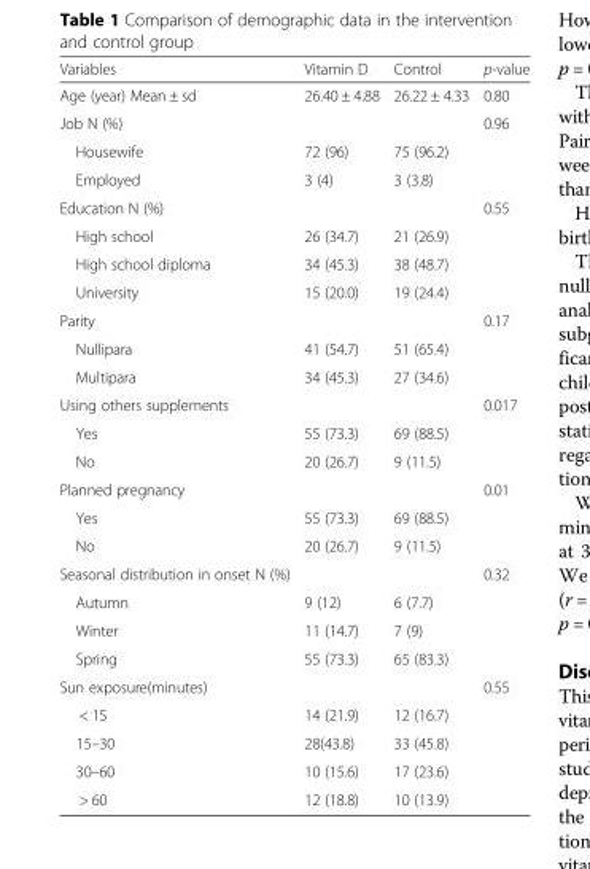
<table><thead><tr><td>Variables</td><td>Vitamin D</td><td>Control</td><td>p-value</td></tr></thead><tbody><tr><td>Age (year) Mean ± sd</td><td>26.40 ± 4.88</td><td>26.22 ± 4.33</td><td>0.80</td></tr><tr><td>Job N (%)</td><td></td><td></td><td>0.96</td></tr><tr><td>Housewife</td><td>72 (96)</td><td>75 (96.2)</td><td rowspan="2"></td></tr><tr><td>Employed</td><td>3 (4)</td><td>3 (3.8)</td></tr><tr><td>Education N (%)</td><td></td><td></td><td>0.55</td></tr><tr><td>High school</td><td>26 (34.7)</td><td>21 (26.9)</td><td rowspan="3"></td></tr><tr><td>High school diploma</td><td>34 (45.3)</td><td>38 (48.7)</td></tr><tr><td>University</td><td>15 (20.0)</td><td>19 (24.4)</td></tr><tr><td>Parity</td><td></td><td></td><td>0.17</td></tr><tr><td>Nullipara</td><td>41 (54.7)</td><td>51 (65.4)</td><td rowspan="2"></td></tr><tr><td>Multipara</td><td>34 (45.3)</td><td>27 (34.6)</td></tr><tr><td>Using others supplements</td><td></td><td></td><td>0.017</td></tr><tr><td>Yes</td><td>55 (73.3)</td><td>69 (88.5)</td><td rowspan="2"></td></tr><tr><td>No</td><td>20 (26.7)</td><td>9 (11.5)</td></tr><tr><td>Planned pregnancy</td><td></td><td></td><td>0.01</td></tr><tr><td>Yes</td><td>55 (73.3)</td><td>69 (88.5)</td><td rowspan="2"></td></tr><tr><td>No</td><td>20 (26.7)</td><td>9 (11.5)</td></tr><tr><td>Seasonal distribution in onset N (%)</td><td></td><td></td><td>0.32</td></tr><tr><td>Autumn</td><td>9 (12)</td><td>6 (7.7)</td><td rowspan="3"></td></tr><tr><td>Winter</td><td>11 (14.7)</td><td>7 (9)</td></tr><tr><td>Spring</td><td>55 (73.3)</td><td>65 (83.3)</td></tr><tr><td>Sun exposure(minutes)</td><td></td><td></td><td>0.55</td></tr><tr><td>&lt; 15</td><td>14 (21.9)</td><td>12 (16.7)</td><td rowspan="4"></td></tr><tr><td>15–30</td><td>28(43.8)</td><td>33 (45.8)</td></tr><tr><td>30–60</td><td>10 (15.6)</td><td>17 (23.6)</td></tr><tr><td>&gt; 60</td><td>12 (18.8)</td><td>10 (13.9)</td></tr></tbody></table>